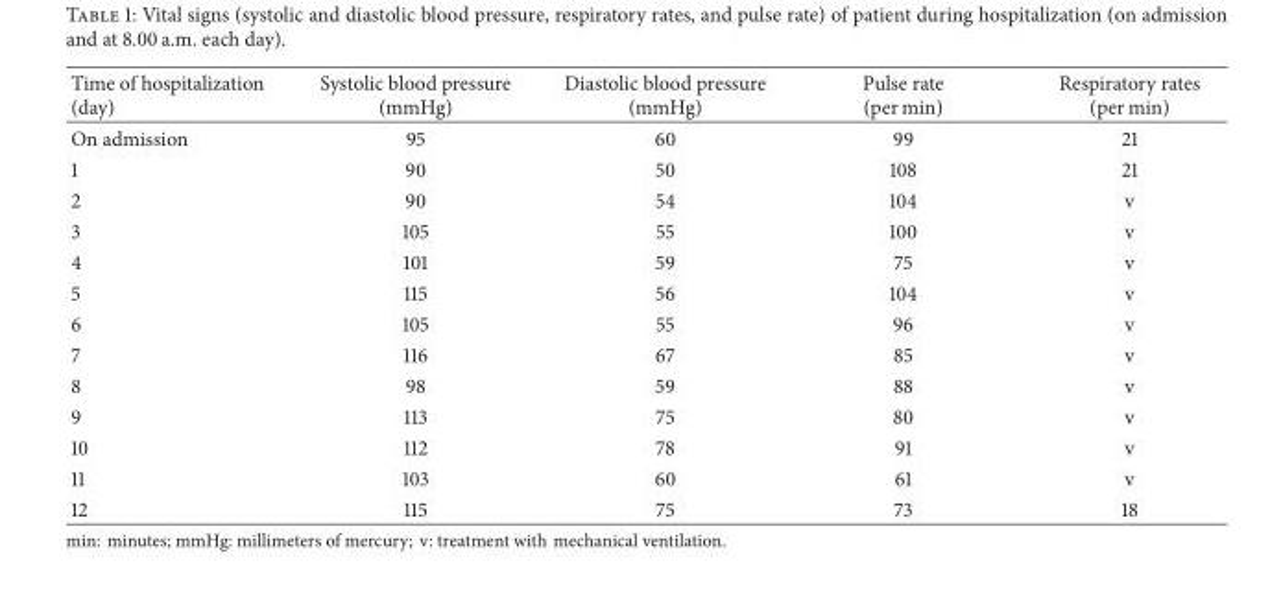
<table><thead><tr><td>Time of hospitalization (day)</td><td>Systolic blood pressure (mmHg)</td><td>Diastolic blood pressure (mmHg)</td><td>Pulse rate (per min)</td><td>Respiratory rates (per min)</td></tr></thead><tbody><tr><td>On admission</td><td>95</td><td>60</td><td>99</td><td>21</td></tr><tr><td>1</td><td>90</td><td>50</td><td>108</td><td>21</td></tr><tr><td>2</td><td>90</td><td>54</td><td>104</td><td>v</td></tr><tr><td>3</td><td>105</td><td>55</td><td>100</td><td>v</td></tr><tr><td>4</td><td>101</td><td>59</td><td>75</td><td>v</td></tr><tr><td>5</td><td>115</td><td>56</td><td>104</td><td>v</td></tr><tr><td>6</td><td>105</td><td>55</td><td>96</td><td>v</td></tr><tr><td>7</td><td>116</td><td>67</td><td>85</td><td>v</td></tr><tr><td>8</td><td>98</td><td>59</td><td>88</td><td>v</td></tr><tr><td>9</td><td>113</td><td>75</td><td>80</td><td>v</td></tr><tr><td>10</td><td>112</td><td>78</td><td>91</td><td>v</td></tr><tr><td>11</td><td>103</td><td>60</td><td>61</td><td>v</td></tr><tr><td>12</td><td>115</td><td>75</td><td>73</td><td>18</td></tr></tbody></table>